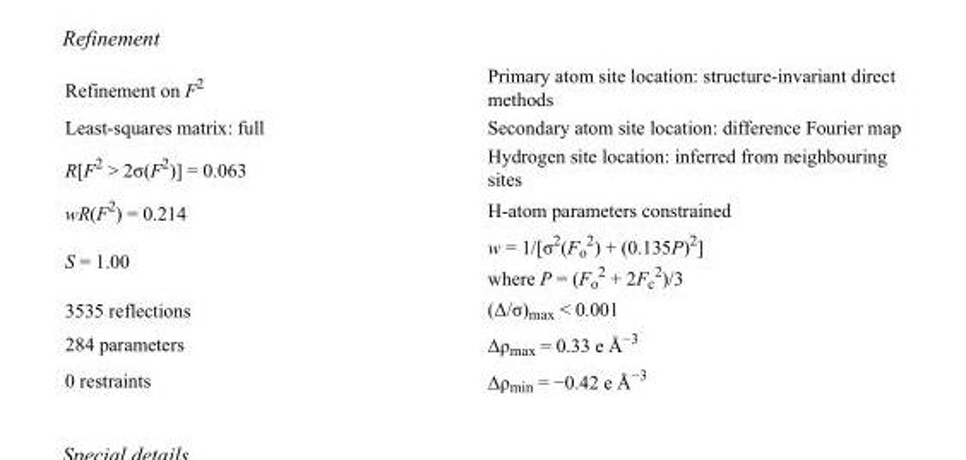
<table><tbody><tr><td>Refinement on F<sup>2</sup></td><td>Primary atom site location: structure-invariant direct methods</td></tr><tr><td>Least-squares matrix: full</td><td>Secondary atom site location: difference Fourier map</td></tr><tr><td>R[F<sup>2</sup> &gt; 2σ(F<sup>2</sup>)] = 0.063</td><td>Hydrogen site location: inferred from neighbouring sites</td></tr><tr><td>wR(F<sup>2</sup>) = 0.214</td><td>H-atom parameters constrained</td></tr><tr><td>S = 1.00</td><td>w = 1/[σ<sup>2</sup>(F<sub>o</sub> <sup>2</sup>) + (0.135P)<sup>2</sup>] where P = (F<sub>o</sub> <sup>2</sup> + 2F<sub>c</sub> <sup>2</sup>)/3</td></tr><tr><td>3535 reflections</td><td>(Δ/σ)<sub>max</sub> &lt; 0.001</td></tr><tr><td>284 parameters</td><td>Δρ<sub>max</sub> = 0.33 e Å<sup>−3</sup></td></tr><tr><td>0 restraints</td><td>Δρ<sub>min</sub> = −0.42 e Å<sup>−3</sup></td></tr></tbody></table>